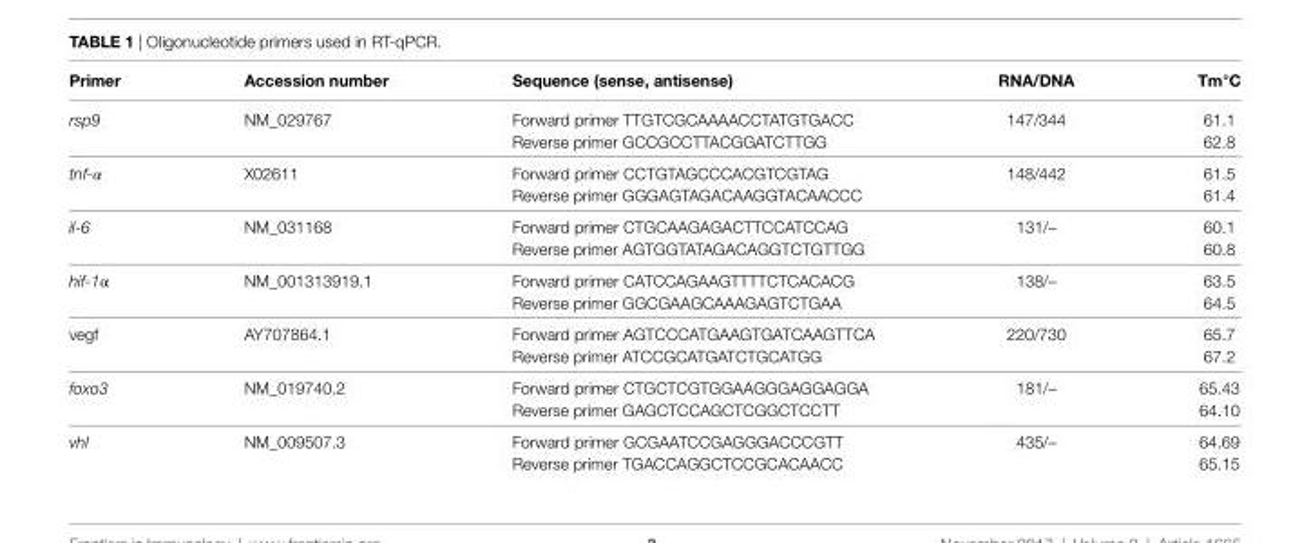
<table><thead><tr><td>primer</td><td>accession number</td><td>sequence (sense, antisense)</td><td>rna/dna</td><td>tm°C</td></tr></thead><tbody><tr><td rowspan="2">rsp9</td><td rowspan="2">NM_029767</td><td>Forward primer TTGTCGCAAAACCTATGTGACC</td><td rowspan="2">147/344</td><td>61.1</td></tr><tr><td>Reverse primer GCCGCCTTACGGATCTTGG</td><td>62.8</td></tr><tr><td rowspan="2">tnf-α</td><td rowspan="2">X02611</td><td>Forward primer CCTGTAGCCCACGTCGTAG</td><td rowspan="2">148/442</td><td>61.5</td></tr><tr><td>Reverse primer GGGAGTAGACAAGGTACAACCC</td><td>61.4</td></tr><tr><td rowspan="2">il-6</td><td rowspan="2">NM_031168</td><td>Forward primer CTGCAAGAGACTTCCATCCAG</td><td rowspan="2">131/–</td><td>60.1</td></tr><tr><td>Reverse primer AGTGGTATAGACAGGTCTGTTGG</td><td>60.8</td></tr><tr><td rowspan="2">hif-1α</td><td rowspan="2">NM_001313919.1</td><td>Forward primer CATCCAGAAGTTTTCTCACACG</td><td rowspan="2">138/–</td><td>63.5</td></tr><tr><td>Reverse primer GGCGAAGCAAAGAGTCTGAA</td><td>64.5</td></tr><tr><td rowspan="2">vegf</td><td rowspan="2">AY707864.1</td><td>Forward primer AGTCCCATGAAGTGATCAAGTTCA</td><td rowspan="2">220/730</td><td>65.7</td></tr><tr><td>Reverse primer ATCCGCATGATCTGCATGG</td><td>67.2</td></tr><tr><td rowspan="2">foxo3</td><td rowspan="2">NM_019740.2</td><td>Forward primer CTGCTCGTGGAAGGGAGGAGGA</td><td rowspan="2">181/–</td><td>65.43</td></tr><tr><td>Reverse primer GAGCTCCAGCTCGGCTCCTT</td><td>64.10</td></tr><tr><td rowspan="2">vhl</td><td rowspan="2">NM_009507.3</td><td>Forward primer GCGAATCCGAGGGACCCGTT</td><td rowspan="2">435/–</td><td>64.69</td></tr><tr><td>Reverse primer TGACCAGGCTCCGCACAACC</td><td>65.15</td></tr></tbody></table>